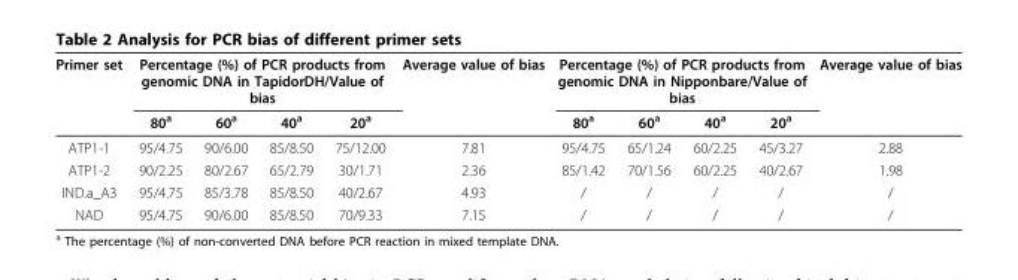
<table><thead><tr><td rowspan="2">Primer set</td><td colspan="4">Percentage (%) of PCR products from genomic DNA in TapidorDH/Value of bias</td><td rowspan="2">Average value of bias</td><td colspan="4">Percentage (%) of PCR products from genomic DNA in Nipponbare/Value of bias</td><td rowspan="2">Average value of bias</td></tr><tr><td>80<sup>a</sup></td><td>60<sup>a</sup></td><td>40<sup>a</sup></td><td>20<sup>a</sup></td><td>80<sup>a</sup></td><td>60<sup>a</sup></td><td>40<sup>a</sup></td><td>20<sup>a</sup></td></tr></thead><tbody><tr><td>ATP1-1</td><td>95/4.75</td><td>90/6.00</td><td>85/8.50</td><td>75/12.00</td><td>7.81</td><td>95/4.75</td><td>65/1.24</td><td>60/2.25</td><td>45/3.27</td><td>2.88</td></tr><tr><td>ATP1-2</td><td>90/2.25</td><td>80/2.67</td><td>65/2.79</td><td>30/1.71</td><td>2.36</td><td>85/1.42</td><td>70/1.56</td><td>60/2.25</td><td>40/2.67</td><td>1.98</td></tr><tr><td>IND.a_A3</td><td>95/4.75</td><td>85/3.78</td><td>85/8.50</td><td>40/2.67</td><td>4.93</td><td>/</td><td>/</td><td>/</td><td>/</td><td>/</td></tr><tr><td>NAD</td><td>95/4.75</td><td>90/6.00</td><td>85/8.50</td><td>70/9.33</td><td>7.15</td><td>/</td><td>/</td><td>/</td><td>/</td><td>/</td></tr></tbody></table>